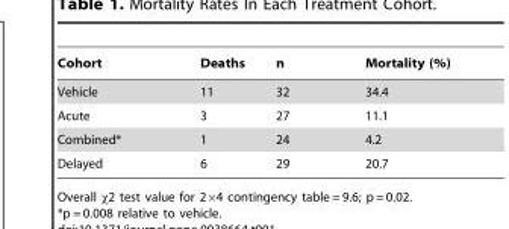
<table><thead><tr><td>Cohort</td><td>Deaths</td><td>n</td><td>Mortality (%)</td></tr></thead><tbody><tr><td>Vehicle</td><td>11</td><td>32</td><td>34.4</td></tr><tr><td>Acute</td><td>3</td><td>27</td><td>11.1</td></tr><tr><td>Combined*</td><td>1</td><td>24</td><td>4.2</td></tr><tr><td>Delayed</td><td>6</td><td>29</td><td>20.7</td></tr></tbody></table>